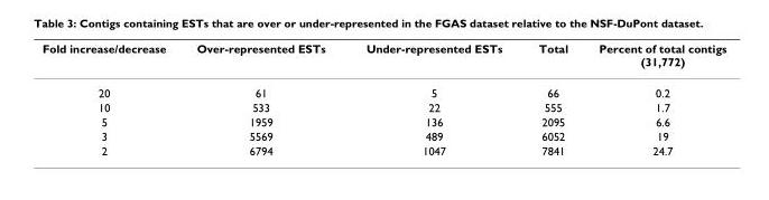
<table><thead><tr><td>Fold increase/decrease</td><td>Over-represented ESTs</td><td>Under-represented ESTs</td><td>Total</td><td>Percent of total contigs (31,772)</td></tr></thead><tbody><tr><td>20</td><td>61</td><td>5</td><td>66</td><td>0.2</td></tr><tr><td>10</td><td>533</td><td>22</td><td>555</td><td>1.7</td></tr><tr><td>5</td><td>1959</td><td>136</td><td>2095</td><td>6.6</td></tr><tr><td>3</td><td>5569</td><td>489</td><td>6052</td><td>19</td></tr><tr><td>2</td><td>6794</td><td>1047</td><td>7841</td><td>24.7</td></tr></tbody></table>